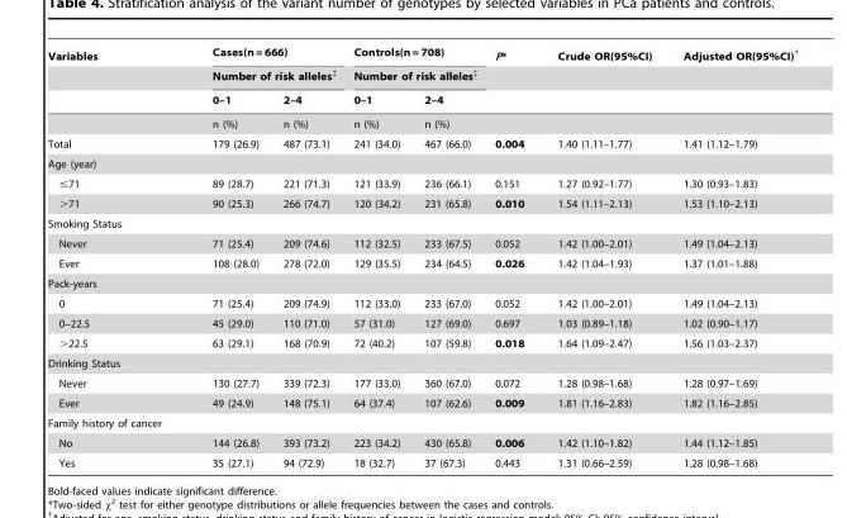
<table><thead><tr><td rowspan="3">Variables</td><td rowspan="2" colspan="2">Cases(n = 666) Number of risk alleles‡</td><td rowspan="2" colspan="2">Controls(n = 708) Number of risk alleles‡</td><td rowspan="3">P*</td><td rowspan="3">Crude OR(95%CI)</td><td rowspan="3">Adjusted OR(95%CI)†</td></tr><tr></tr><tr><td>0–1</td><td>2–4</td><td>0–1</td><td>2–4</td></tr></thead><tbody><tr><td></td><td>n (%)</td><td>n (%)</td><td>n (%)</td><td>n (%)</td><td></td><td></td><td></td></tr><tr><td>Total</td><td>179 (26.9)</td><td>487 (73.1)</td><td>241 (34.0)</td><td>467 (66.0)</td><td>0.004</td><td>1.40 (1.11–1.77)</td><td>1.41 (1.12–1.79)</td></tr><tr><td colspan="8">Age (year)</td></tr><tr><td>≤71</td><td>89 (28.7)</td><td>221 (71.3)</td><td>121 (33.9)</td><td>236 (66.1)</td><td>0.151</td><td>1.27 (0.92–1.77)</td><td>1.30 (0.93–1.83)</td></tr><tr><td>&gt;71</td><td>90 (25.3)</td><td>266 (74.7)</td><td>120 (34.2)</td><td>231 (65.8)</td><td>0.010</td><td>1.54 (1.11–2.13)</td><td>1.53 (1.10–2.13)</td></tr><tr><td colspan="8">Smoking Status</td></tr><tr><td>Never</td><td>71 (25.4)</td><td>209 (74.6)</td><td>112 (32.5)</td><td>233 (67.5)</td><td>0.052</td><td>1.42 (1.00–2.01)</td><td>1.49 (1.04–2.13)</td></tr><tr><td>Ever</td><td>108 (28.0)</td><td>278 (72.0)</td><td>129 (35.5)</td><td>234 (64.5)</td><td>0.026</td><td>1.42 (1.04–1.93)</td><td>1.37 (1.01–1.88)</td></tr><tr><td colspan="8">Pack-years</td></tr><tr><td>0</td><td>71 (25.4)</td><td>209 (74.9)</td><td>112 (33.0)</td><td>233 (67.0)</td><td>0.052</td><td>1.42 (1.00–2.01)</td><td>1.49 (1.04–2.13)</td></tr><tr><td>0–22.5</td><td>45 (29.0)</td><td>110 (71.0)</td><td>57 (31.0)</td><td>127 (69.0)</td><td>0.697</td><td>1.03 (0.89–1.18)</td><td>1.02 (0.90–1.17)</td></tr><tr><td>&gt;22.5</td><td>63 (29.1)</td><td>168 (70.9)</td><td>72 (40.2)</td><td>107 (59.8)</td><td>0.018</td><td>1.64 (1.09–2.47)</td><td>1.56 (1.03–2.37)</td></tr><tr><td colspan="8">Drinking Status</td></tr><tr><td>Never</td><td>130 (27.7)</td><td>339 (72.3)</td><td>177 (33.0)</td><td>360 (67.0)</td><td>0.072</td><td>1.28 (0.98–1.68)</td><td>1.28 (0.97–1.69)</td></tr><tr><td>Ever</td><td>49 (24.9)</td><td>148 (75.1)</td><td>64 (37.4)</td><td>107 (62.6)</td><td>0.009</td><td>1.81 (1.16–2.83)</td><td>1.82 (1.16–2.85)</td></tr><tr><td colspan="8">Family history of cancer</td></tr><tr><td>No</td><td>144 (26.8)</td><td>393 (73.2)</td><td>223 (34.2)</td><td>430 (65.8)</td><td>0.006</td><td>1.42 (1.10–1.82)</td><td>1.44 (1.12–1.85)</td></tr><tr><td>Yes</td><td>35 (27.1)</td><td>94 (72.9)</td><td>18 (32.7)</td><td>37 (67.3)</td><td>0.443</td><td>1.31 (0.66–2.59)</td><td>1.28 (0.98–1.68)</td></tr></tbody></table>